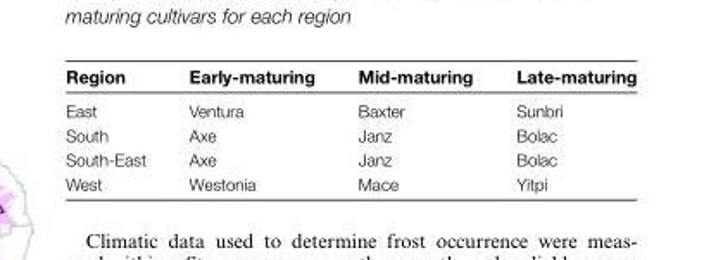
<table><thead><tr><td>Region</td><td>Early-maturing</td><td>Mid-maturing</td><td>Late-maturing</td></tr></thead><tbody><tr><td>East</td><td>Ventura</td><td>Baxter</td><td>Sunbri</td></tr><tr><td>South</td><td>Axe</td><td>Janz</td><td>Bolac</td></tr><tr><td>South-East</td><td>Axe</td><td>Janz</td><td>Bolac</td></tr><tr><td>West</td><td>Westonia</td><td>Mace</td><td>Yitpi</td></tr></tbody></table>